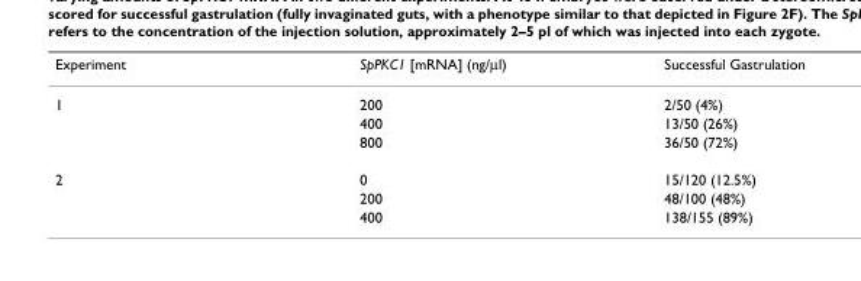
<table><thead><tr><td>Experiment</td><td>SpPKC1 [mRNA] (ng/µl)</td><td>Successful Gastrulation</td></tr></thead><tbody><tr><td rowspan="3">1</td><td>200</td><td>2/50 (4%)</td></tr><tr><td>400</td><td>13/50 (26%)</td></tr><tr><td>800</td><td>36/50 (72%)</td></tr><tr><td rowspan="3">2</td><td>0</td><td>15/120 (12.5%)</td></tr><tr><td>200</td><td>48/100 (48%)</td></tr><tr><td>400</td><td>138/155 (89%)</td></tr></tbody></table>